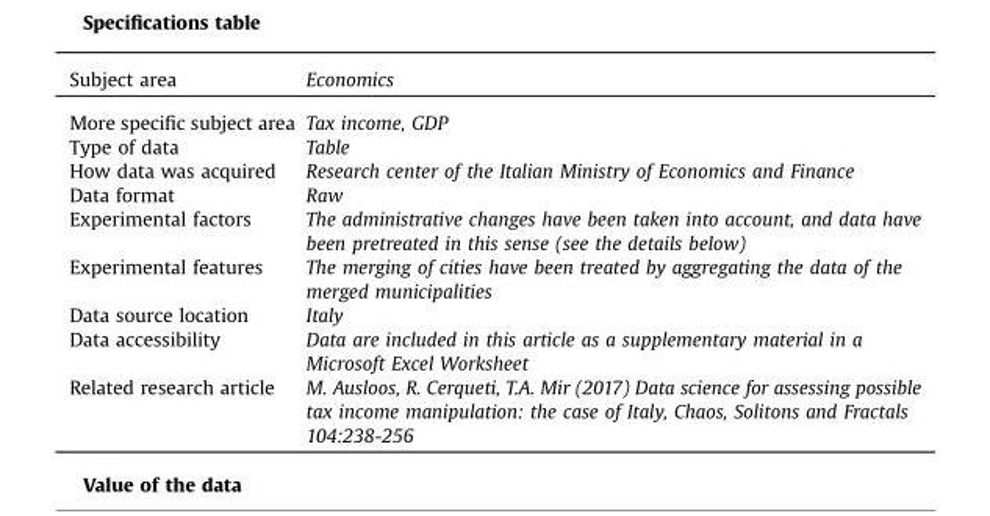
<table><thead><tr><td>Subject area</td><td>Economics</td></tr></thead><tbody><tr><td>More specific subject area</td><td>Tax income, GDP</td></tr><tr><td>Type of data</td><td>Table</td></tr><tr><td>How data was acquired</td><td>Research center of the Italian Ministry of Economics and Finance</td></tr><tr><td>Data format</td><td>Raw</td></tr><tr><td>Experimental factors</td><td>The administrative changes have been taken into account, and data have been pretreated in this sense (see the details below)</td></tr><tr><td>Experimental features</td><td>The merging of cities have been treated by aggregating the data of the merged municipalities</td></tr><tr><td>Data source location</td><td>Italy</td></tr><tr><td>Data accessibility</td><td>Data are included in this article as a supplementary material in a Microsoft Excel Worksheet</td></tr><tr><td>Related research article</td><td>M. Ausloos, R. Cerqueti, T.A. Mir (2017) Data science for assessing possible tax income manipulation: the case of Italy, Chaos, Solitons and Fractals 104:238-256</td></tr></tbody></table>